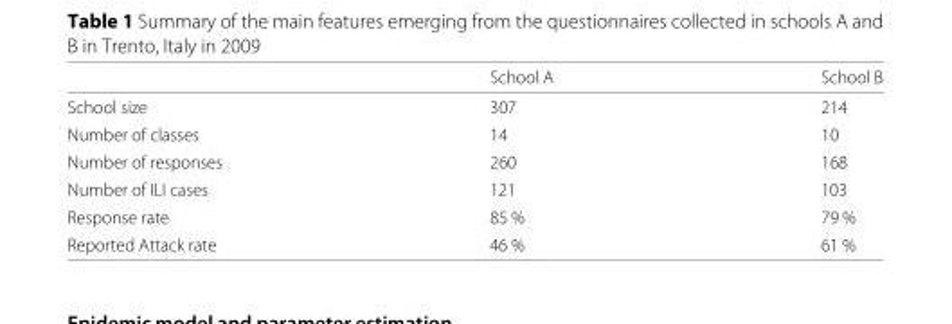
<table><thead><tr><td></td><td>School A</td><td>School B</td></tr></thead><tbody><tr><td>School size</td><td>307</td><td>214</td></tr><tr><td>Number of classes</td><td>14</td><td>10</td></tr><tr><td>Number of responses</td><td>260</td><td>168</td></tr><tr><td>Number of ILI cases</td><td>121</td><td>103</td></tr><tr><td>Response rate</td><td>85 %</td><td>79 %</td></tr><tr><td>Reported Attack rate</td><td>46 %</td><td>61 %</td></tr></tbody></table>